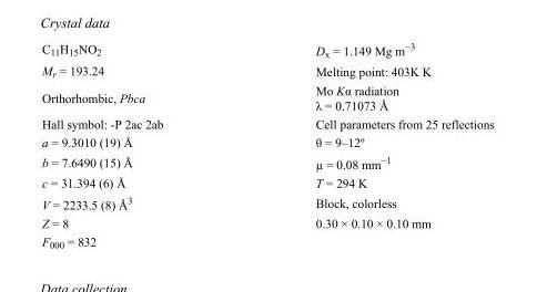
<table><tbody><tr><td>C<sub>11</sub>H<sub>15</sub>NO<sub>2</sub></td><td>D<sub>x</sub> = 1.149 Mg m<sup>−3</sup></td></tr><tr><td>M<sub>r</sub> = 193.24</td><td>Melting point: 403K K</td></tr><tr><td>Orthorhombic, Pbca</td><td>Mo Kα radiation λ = 0.71073 Å</td></tr><tr><td>Hall symbol: -P 2ac 2ab</td><td>Cell parameters from 25 reflections</td></tr><tr><td>a = 9.3010 (19) Å</td><td>θ = 9–12º</td></tr><tr><td>b = 7.6490 (15) Å</td><td>µ = 0.08 mm<sup>−1</sup></td></tr><tr><td>c = 31.394 (6) Å</td><td>T = 294 K</td></tr><tr><td>V = 2233.5 (8) Å<sup>3</sup></td><td>Block, colorless</td></tr><tr><td>Z = 8</td><td>0.30 × 0.10 × 0.10 mm</td></tr><tr><td>F000 = 832</td><td></td></tr></tbody></table>